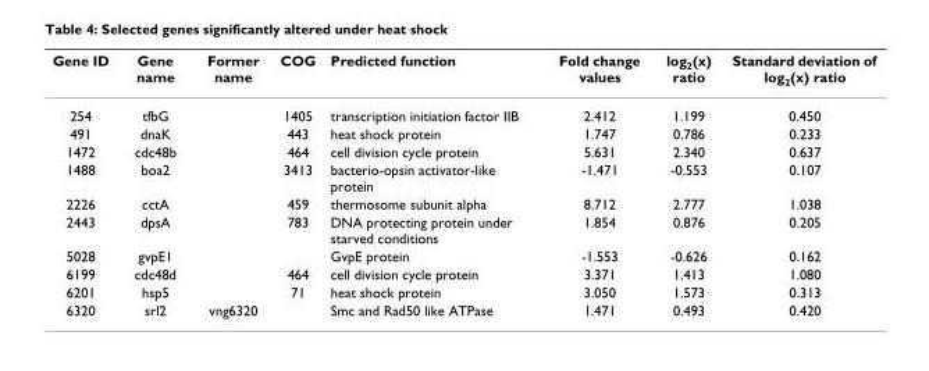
<table><thead><tr><td>Gene ID</td><td>Gene name</td><td>Former name</td><td>COG</td><td>Predicted function</td><td>Fold change values</td><td>log<sub>2</sub>(x) ratio</td><td>Standard deviation of log<sub>2</sub>(x) ratio</td></tr></thead><tbody><tr><td>254</td><td>tfbG</td><td></td><td>1405</td><td>transcription initiation factor IIB</td><td>2.412</td><td>1.199</td><td>0.450</td></tr><tr><td>491</td><td>dnaK</td><td></td><td>443</td><td>heat shock protein</td><td>1.747</td><td>0.786</td><td>0.233</td></tr><tr><td>1472</td><td>cdc48b</td><td></td><td>464</td><td>cell division cycle protein</td><td>5.631</td><td>2.340</td><td>0.637</td></tr><tr><td>1488</td><td>boa2</td><td></td><td>3413</td><td>bacterio-opsin activator-like protein</td><td>-1.471</td><td>-0.553</td><td>0.107</td></tr><tr><td>2226</td><td>cctA</td><td></td><td>459</td><td>thermosome subunit alpha</td><td>8.712</td><td>2.777</td><td>1.038</td></tr><tr><td>2443</td><td>dpsA</td><td></td><td>783</td><td>DNA protecting protein under starved conditions</td><td>1.854</td><td>0.876</td><td>0.205</td></tr><tr><td>5028</td><td>gvpE1</td><td></td><td></td><td>GvpE protein</td><td>-1.553</td><td>-0.626</td><td>0.162</td></tr><tr><td>6199</td><td>cdc48d</td><td></td><td>464</td><td>cell division cycle protein</td><td>3.371</td><td>1.413</td><td>1.080</td></tr><tr><td>6201</td><td>hsp5</td><td></td><td>71</td><td>heat shock protein</td><td>3.050</td><td>1.573</td><td>0.313</td></tr><tr><td>6320</td><td>srl2</td><td>vng6320</td><td></td><td>Smc and Rad50 like ATPase</td><td>1.471</td><td>0.493</td><td>0.420</td></tr></tbody></table>